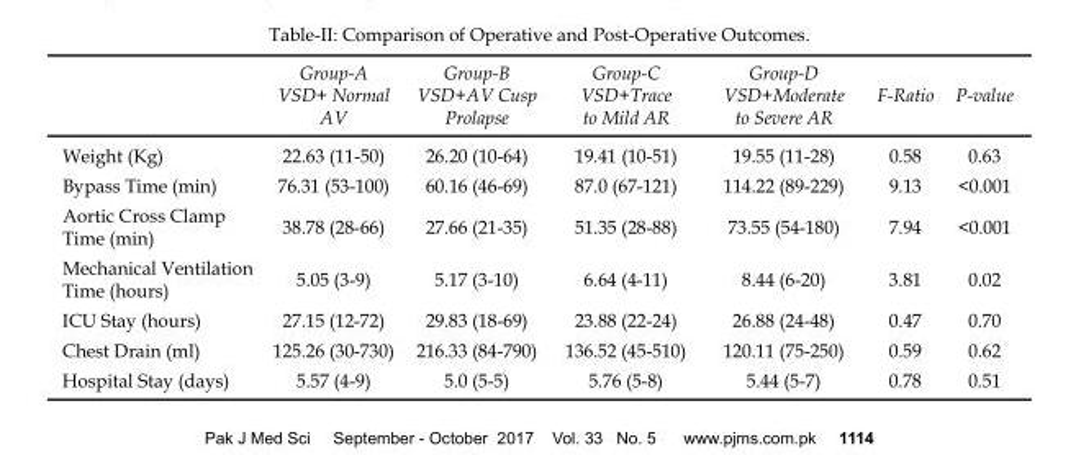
<table><thead><tr><td></td><td>Group-A VSD+ Normal AV</td><td>Group-B VSD+AV Cusp Prolapse</td><td>Group-C VSD+Trace to Mild AR</td><td>Group-D VSD+Moderate to Severe AR</td><td>F-Ratio</td><td>P-value</td></tr></thead><tbody><tr><td>Weight (Kg)</td><td>22.63 (11-50)</td><td>26.20 (10-64)</td><td>19.41 (10-51)</td><td>19.55 (11-28)</td><td>0.58</td><td>0.63</td></tr><tr><td>Bypass Time (min)</td><td>76.31 (53-100)</td><td>60.16 (46-69)</td><td>87.0 (67-121)</td><td>114.22 (89-229)</td><td>9.13</td><td>&lt;0.001</td></tr><tr><td>Aortic Cross Clamp Time (min)</td><td>38.78 (28-66)</td><td>27.66 (21-35)</td><td>51.35 (28-88)</td><td>73.55 (54-180)</td><td>7.94</td><td>&lt;0.001</td></tr><tr><td>Mechanical Ventilation Time (hours)</td><td>5.05 (3-9)</td><td>5.17 (3-10)</td><td>6.64 (4-11)</td><td>8.44 (6-20)</td><td>3.81</td><td>0.02</td></tr><tr><td>ICU Stay (hours)</td><td>27.15 (12-72)</td><td>29.83 (18-69)</td><td>23.88 (22-24)</td><td>26.88 (24-48)</td><td>0.47</td><td>0.70</td></tr><tr><td>Chest Drain (ml)</td><td>125.26 (30-730)</td><td>216.33 (84-790)</td><td>136.52 (45-510)</td><td>120.11 (75-250)</td><td>0.59</td><td>0.62</td></tr><tr><td>Hospital Stay (days)</td><td>5.57 (4-9)</td><td>5.0 (5-5)</td><td>5.76 (5-8)</td><td>5.44 (5-7)</td><td>0.78</td><td>0.51</td></tr></tbody></table>